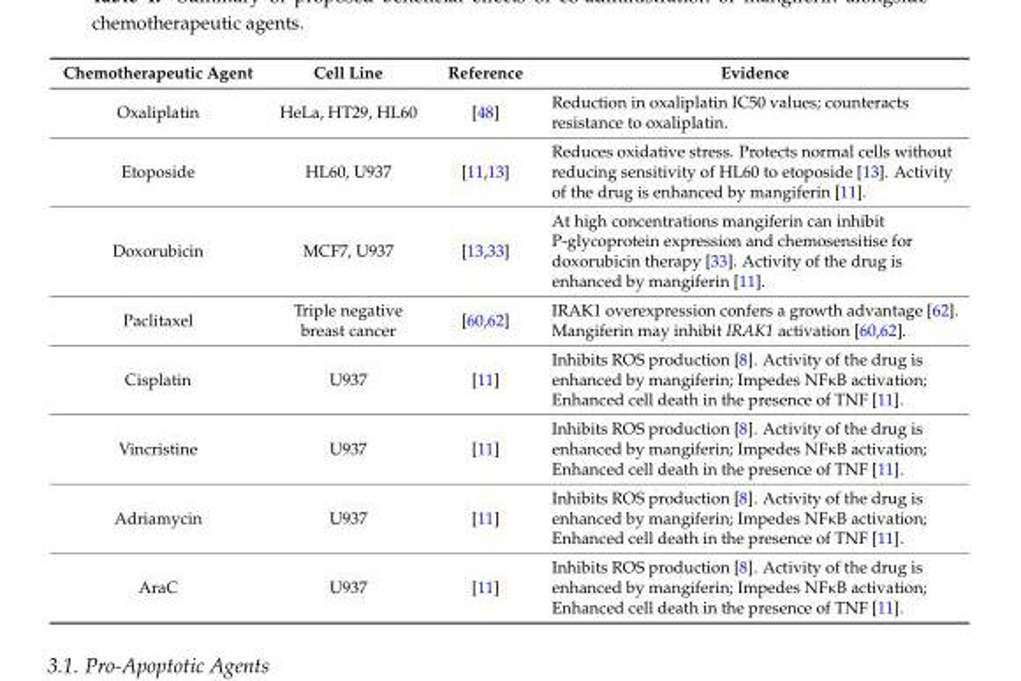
<table><thead><tr><td>Chemotherapeutic Agent</td><td>Cell Line</td><td>Reference</td><td>Evidence</td></tr></thead><tbody><tr><td>Oxaliplatin</td><td>HeLa, HT29, HL60</td><td>[48]</td><td>Reduction in oxaliplatin IC50 values; counteracts resistance to oxaliplatin.</td></tr><tr><td>Etoposide</td><td>HL60, U937</td><td>[11,13]</td><td>Reduces oxidative stress. Protects normal cells without reducing sensitivity of HL60 to etoposide [13]. Activity of the drug is enhanced by mangiferin [11].</td></tr><tr><td>Doxorubicin</td><td>MCF7, U937</td><td>[13,33]</td><td>At high concentrations mangiferin can inhibit P-glycoprotein expression and chemosensitise for doxorubicin therapy [33]. Activity of the drug is enhanced by mangiferin [11].</td></tr><tr><td>Paclitaxel</td><td>Triple negative breast cancer</td><td>[60,62]</td><td>IRAK1 overexpression confers a growth advantage [62]. Mangiferin may inhibit IRAK1 activation [60,62].</td></tr><tr><td>Cisplatin</td><td>U937</td><td>[11]</td><td>Inhibits ROS production [8]. Activity of the drug is enhanced by mangiferin; Impedes NFκB activation; Enhanced cell death in the presence of TNF [11].</td></tr><tr><td>Vincristine</td><td>U937</td><td>[11]</td><td>Inhibits ROS production [8]. Activity of the drug is enhanced by mangiferin; Impedes NFκB activation; Enhanced cell death in the presence of TNF [11].</td></tr><tr><td>Adriamycin</td><td>U937</td><td>[11]</td><td>Inhibits ROS production [8]. Activity of the drug is enhanced by mangiferin; Impedes NFκB activation; Enhanced cell death in the presence of TNF [11].</td></tr><tr><td>AraC</td><td>U937</td><td>[11]</td><td>Inhibits ROS production [8]. Activity of the drug is enhanced by mangiferin; Impedes NFκB activation; Enhanced cell death in the presence of TNF [11].</td></tr></tbody></table>